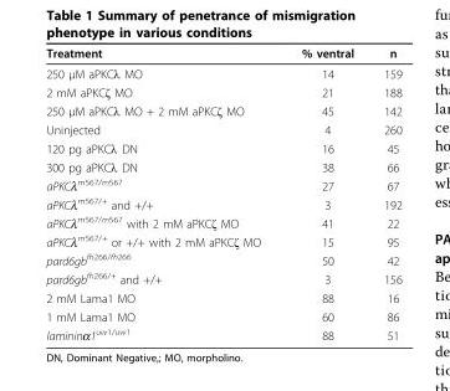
<table><thead><tr><td>Treatment</td><td>% ventral</td><td>n</td></tr></thead><tbody><tr><td>250 μM aPKCλ MO</td><td>14</td><td>159</td></tr><tr><td>2 mM aPKCζ MO</td><td>21</td><td>188</td></tr><tr><td>250 μM aPKCλ MO + 2 mM aPKCζ MO</td><td>45</td><td>142</td></tr><tr><td>Uninjected</td><td>4</td><td>260</td></tr><tr><td>120 pg aPKCλ DN</td><td>16</td><td>45</td></tr><tr><td>300 pg aPKCλ DN</td><td>38</td><td>66</td></tr><tr><td>aPKCλ<sup>m567/m567</sup></td><td>27</td><td>67</td></tr><tr><td>aPKCλ<sup>m567/+</sup> and +/+</td><td>3</td><td>192</td></tr><tr><td>aPKCλ<sup>m567/m567</sup> with 2 mM aPKCζ MO</td><td>41</td><td>22</td></tr><tr><td>aPKCλ<sup>m567/+</sup> or +/+ with 2 mM aPKCζ MO</td><td>15</td><td>95</td></tr><tr><td>pard6gb<sup>fh266/fh266</sup></td><td>50</td><td>42</td></tr><tr><td>pard6gb<sup>fh266/+</sup> and +/+</td><td>3</td><td>156</td></tr><tr><td>2 mM Lama1 MO</td><td>88</td><td>16</td></tr><tr><td>1 mM Lama1 MO</td><td>60</td><td>86</td></tr><tr><td>lamininα1<sup>uw1/uw1</sup></td><td>88</td><td>51</td></tr></tbody></table>